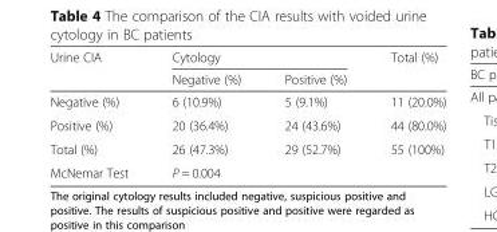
<table><thead><tr><td rowspan="2">Urine CIA</td><td colspan="2">Cytology</td><td rowspan="2">Total (%)</td></tr><tr><td>Negative (%)</td><td>Positive (%)</td></tr></thead><tbody><tr><td>Negative (%)</td><td>6 (10.9%)</td><td>5 (9.1%)</td><td>11 (20.0%)</td></tr><tr><td>Positive (%)</td><td>20 (36.4%)</td><td>24 (43.6%)</td><td>44 (80.0%)</td></tr><tr><td>Total (%)</td><td>26 (47.3%)</td><td>29 (52.7%)</td><td>55 (100%)</td></tr><tr><td>McNemar Test</td><td colspan="2">P = 0.004</td><td></td></tr></tbody></table>